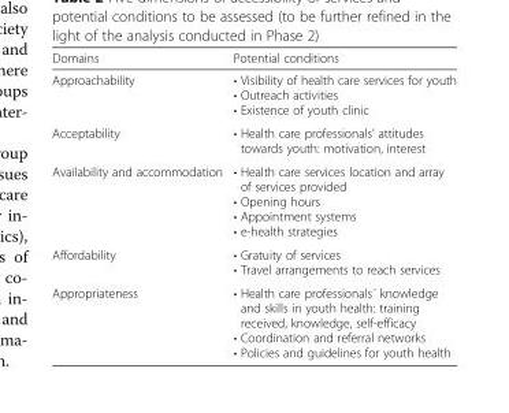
<table><thead><tr><td>Domains</td><td>Potential conditions</td></tr></thead><tbody><tr><td>Approachability</td><td>• Visibility of health care services for youth • Outreach activities • Existence of youth clinic</td></tr><tr><td>Acceptability</td><td>• Health care professionals’ attitudes towards youth: motivation, interest</td></tr><tr><td>Availability and accommodation</td><td>• Health care services location and array of services provided • Opening hours • Appointment systems • e-health strategies</td></tr><tr><td>Affordability</td><td>• Gratuity of services • Travel arrangements to reach services</td></tr><tr><td>Appropriateness</td><td>• Health care professionals´ knowledge and skills in youth health: training received, knowledge, self-efficacy • Coordination and referral networks • Policies and guidelines for youth health</td></tr></tbody></table>